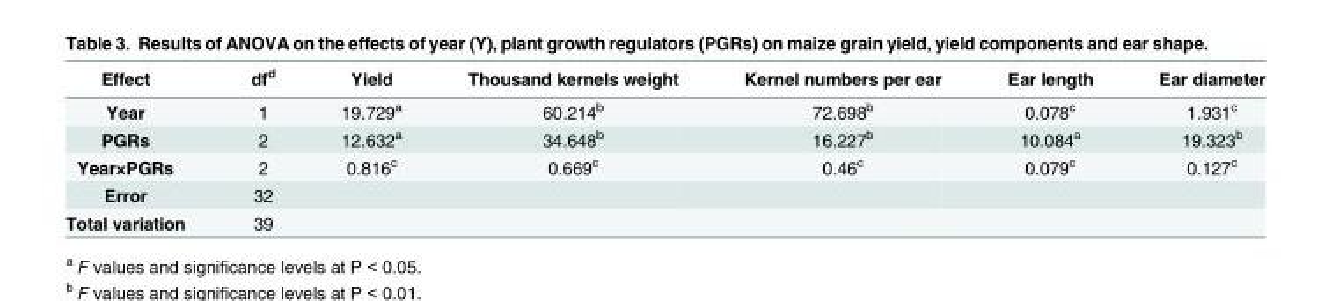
<table><thead><tr><td>Effect</td><td>df<sup>d</sup></td><td>Yield</td><td>Thousand kernels weight</td><td>Kernel numbers per ear</td><td>Ear length</td><td>Ear diameter</td></tr></thead><tbody><tr><td>Year</td><td>1</td><td>19.729<sup>a</sup></td><td>60.214<sup>b</sup></td><td>72.698<sup>b</sup></td><td>0.078<sup>c</sup></td><td>1.931<sup>c</sup></td></tr><tr><td>PGRs</td><td>2</td><td>12.632<sup>a</sup></td><td>34.648<sup>b</sup></td><td>16.227<sup>b</sup></td><td>10.084<sup>a</sup></td><td>19.323<sup>b</sup></td></tr><tr><td>Year×PGRs</td><td>2</td><td>0.816<sup>c</sup></td><td>0.669<sup>c</sup></td><td>0.46<sup>c</sup></td><td>0.079<sup>c</sup></td><td>0.127<sup>c</sup></td></tr><tr><td>Error</td><td>32</td><td></td><td></td><td></td><td></td><td></td></tr><tr><td>Total variation</td><td>39</td><td></td><td></td><td></td><td></td><td></td></tr></tbody></table>